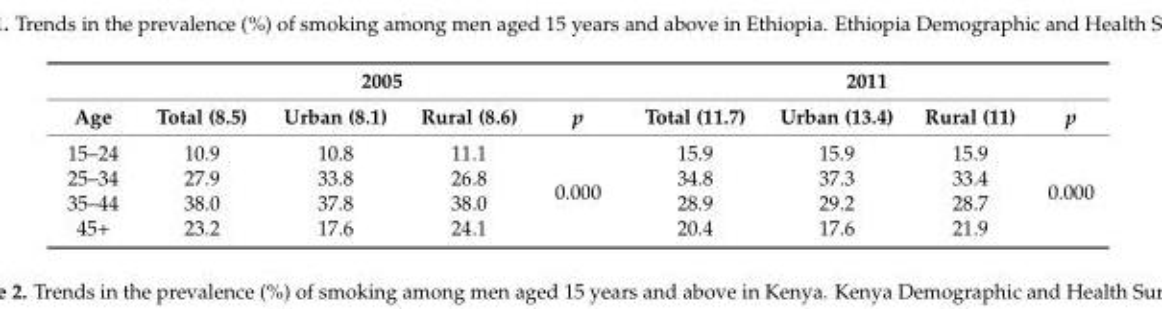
<table><thead><tr><td rowspan="2">Age</td><td colspan="4">2005</td><td colspan="4">2011</td></tr><tr><td>Total (8.5)</td><td>Urban (8.1)</td><td>Rural (8.6)</td><td>p</td><td>Total (11.7)</td><td>Urban (13.4)</td><td>Rural (11)</td><td>p</td></tr></thead><tbody><tr><td>15–24</td><td>10.9</td><td>10.8</td><td>11.1</td><td rowspan="4">0.000</td><td>15.9</td><td>15.9</td><td>15.9</td><td rowspan="4">0.000</td></tr><tr><td>25–34</td><td>27.9</td><td>33.8</td><td>26.8</td><td>34.8</td><td>37.3</td><td>33.4</td></tr><tr><td>35–44</td><td>38.0</td><td>37.8</td><td>38.0</td><td>28.9</td><td>29.2</td><td>28.7</td></tr><tr><td>45+</td><td>23.2</td><td>17.6</td><td>24.1</td><td>20.4</td><td>17.6</td><td>21.9</td></tr></tbody></table>